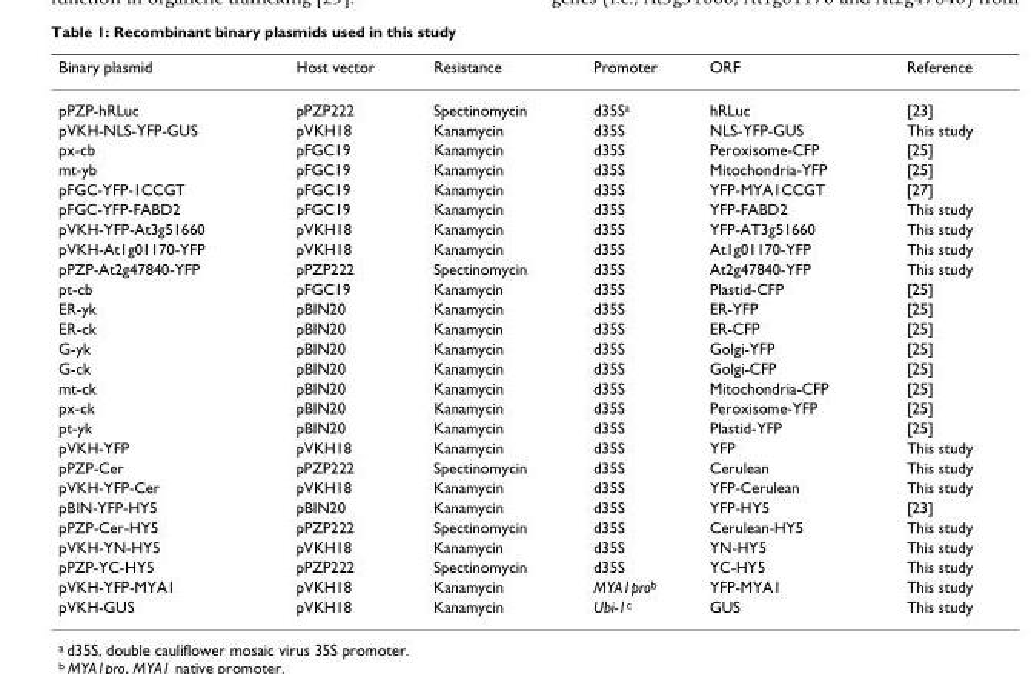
<table><thead><tr><td>Binary plasmid</td><td>Host vector</td><td>Resistance</td><td>Promoter</td><td>ORF</td><td>Reference</td></tr></thead><tbody><tr><td>pPZP-hRLuc</td><td>pPZP222</td><td>Spectinomycin</td><td>d35S<sup>a</sup></td><td>hRLuc</td><td>[23]</td></tr><tr><td>pVKH-NLS-YFP-GUS</td><td>pVKH18</td><td>Kanamycin</td><td>d35S</td><td>NLS-YFP-GUS</td><td>This study</td></tr><tr><td>px-cb</td><td>pFGC19</td><td>Kanamycin</td><td>d35S</td><td>Peroxisome-CFP</td><td>[25]</td></tr><tr><td>mt-yb</td><td>pFGC19</td><td>Kanamycin</td><td>d35S</td><td>Mitochondria-YFP</td><td>[25]</td></tr><tr><td>pFGC-YFP-1CCGT</td><td>pFGC19</td><td>Kanamycin</td><td>d35S</td><td>YFP-MYA1CCGT</td><td>[27]</td></tr><tr><td>pFGC-YFP-FABD2</td><td>pFGC19</td><td>Kanamycin</td><td>d35S</td><td>YFP-FABD2</td><td>This study</td></tr><tr><td>pVKH-YFP-At3g51660</td><td>pVKH18</td><td>Kanamycin</td><td>d35S</td><td>YFP-AT3g51660</td><td>This study</td></tr><tr><td>pVKH-At1g01170-YFP</td><td>pVKH18</td><td>Kanamycin</td><td>d35S</td><td>At1g01170-YFP</td><td>This study</td></tr><tr><td>pPZP-At2g47840-YFP</td><td>pPZP222</td><td>Spectinomycin</td><td>d35S</td><td>At2g47840-YFP</td><td>This study</td></tr><tr><td>pt-cb</td><td>pFGC19</td><td>Kanamycin</td><td>d35S</td><td>Plastid-CFP</td><td>[25]</td></tr><tr><td>ER-yk</td><td>pBIN20</td><td>Kanamycin</td><td>d35S</td><td>ER-YFP</td><td>[25]</td></tr><tr><td>ER-ck</td><td>pBIN20</td><td>Kanamycin</td><td>d35S</td><td>ER-CFP</td><td>[25]</td></tr><tr><td>G-yk</td><td>pBIN20</td><td>Kanamycin</td><td>d35S</td><td>Golgi-YFP</td><td>[25]</td></tr><tr><td>G-ck</td><td>pBIN20</td><td>Kanamycin</td><td>d35S</td><td>Golgi-CFP</td><td>[25]</td></tr><tr><td>mt-ck</td><td>pBIN20</td><td>Kanamycin</td><td>d35S</td><td>Mitochondria-CFP</td><td>[25]</td></tr><tr><td>px-ck</td><td>pBIN20</td><td>Kanamycin</td><td>d35S</td><td>Peroxisome-YFP</td><td>[25]</td></tr><tr><td>pt-yk</td><td>pBIN20</td><td>Kanamycin</td><td>d35S</td><td>Plastid-YFP</td><td>[25]</td></tr><tr><td>pVKH-YFP</td><td>pVKH18</td><td>Kanamycin</td><td>d35S</td><td>YFP</td><td>This study</td></tr><tr><td>pPZP-Cer</td><td>pPZP222</td><td>Spectinomycin</td><td>d35S</td><td>Cerulean</td><td>This study</td></tr><tr><td>pVKH-YFP-Cer</td><td>pVKH18</td><td>Kanamycin</td><td>d35S</td><td>YFP-Cerulean</td><td>This study</td></tr><tr><td>pBIN-YFP-HY5</td><td>pBIN20</td><td>Kanamycin</td><td>d35S</td><td>YFP-HY5</td><td>[23]</td></tr><tr><td>pPZP-Cer-HY5</td><td>pPZP222</td><td>Spectinomycin</td><td>d35S</td><td>Cerulean-HY5</td><td>This study</td></tr><tr><td>pVKH-YN-HY5</td><td>pVKH18</td><td>Kanamycin</td><td>d35S</td><td>YN-HY5</td><td>This study</td></tr><tr><td>pPZP-YC-HY5</td><td>pPZP222</td><td>Spectinomycin</td><td>d35S</td><td>YC-HY5</td><td>This study</td></tr><tr><td>pVKH-YFP-MYA1</td><td>pVKH18</td><td>Kanamycin</td><td>MYA1pro<sup>b</sup></td><td>YFP-MYA1</td><td>This study</td></tr><tr><td>pVKH-GUS</td><td>pVKH18</td><td>Kanamycin</td><td>Ubi-1<sup>c</sup></td><td>GUS</td><td>This study</td></tr></tbody></table>